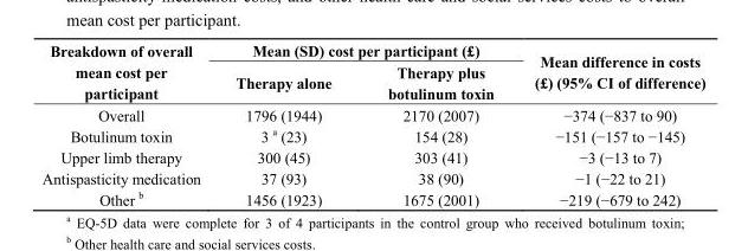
<table><thead><tr><td rowspan="2">Breakdown of overall mean cost per participant</td><td colspan="2">Mean (SD) cost per participant (£)</td><td rowspan="2">Mean difference in costs (£) (95% CI of difference)</td></tr><tr><td>Therapy alone</td><td>Therapy plus botulinum toxin</td></tr></thead><tbody><tr><td>Overall</td><td>1796 (1944)</td><td>2170 (2007)</td><td>−374 (−837 to 90)</td></tr><tr><td>Botulinum toxin</td><td>3 <sup>a</sup> (23)</td><td>154 (28)</td><td>−151 (−157 to −145)</td></tr><tr><td>Upper limb therapy</td><td>300 (45)</td><td>303 (41)</td><td>−3 (−13 to 7)</td></tr><tr><td>Antispasticity medication</td><td>37 (93)</td><td>38 (90)</td><td>−1 (−22 to 21)</td></tr><tr><td>Other <sup>b</sup></td><td>1456 (1923)</td><td>1675 (2001)</td><td>−219 (−679 to 242)</td></tr></tbody></table>